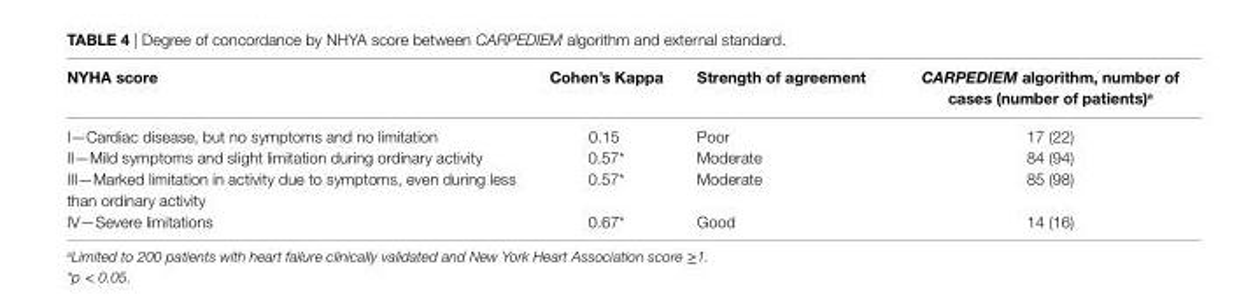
<table><thead><tr><td>nYha score</td><td>cohen’s Kappa</td><td>strength of agreement</td><td>CARPEDIEM algorithm, number of cases (number of patients)<sup>a</sup></td></tr></thead><tbody><tr><td>I—Cardiac disease, but no symptoms and no limitation</td><td>0.15</td><td>Poor</td><td>17 (22)</td></tr><tr><td>II—Mild symptoms and slight limitation during ordinary activity</td><td>0.57*</td><td>Moderate</td><td>84 (94)</td></tr><tr><td>III—Marked limitation in activity due to symptoms, even during less than ordinary activity</td><td>0.57*</td><td>Moderate</td><td>85 (98)</td></tr><tr><td>IV—Severe limitations</td><td>0.67*</td><td>Good</td><td>14 (16)</td></tr></tbody></table>